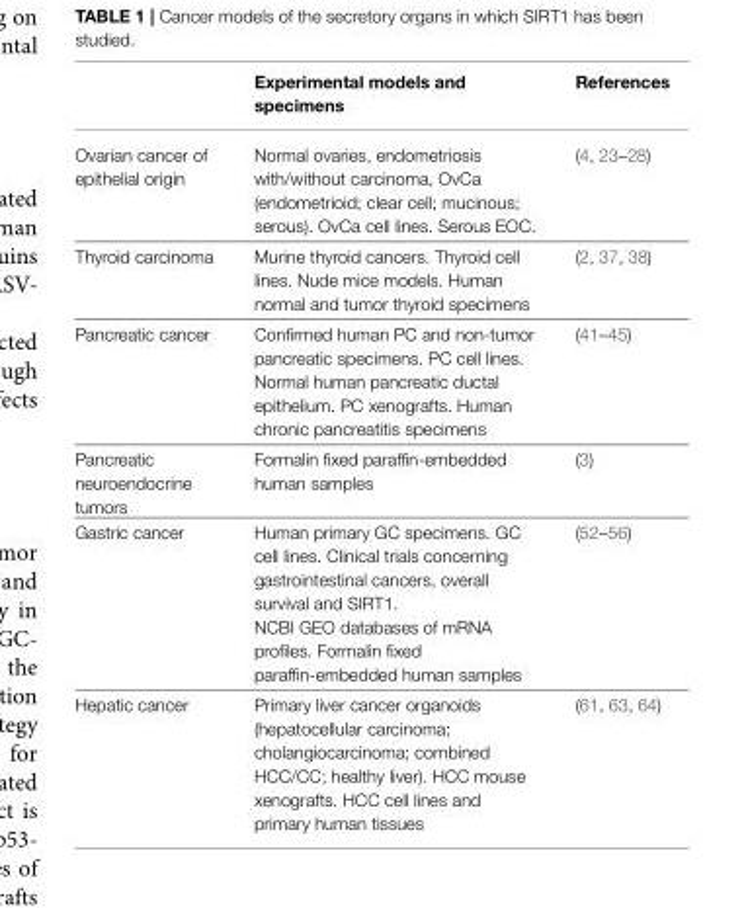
<table><thead><tr><td></td><td>Experimental models and specimens</td><td>References</td></tr></thead><tbody><tr><td>Ovarian cancer of epithelial origin</td><td>Normal ovaries, endometriosis with/without carcinoma, OvCa (endometrioid; clear cell; mucinous; serous). OvCa cell lines. Serous EOC.</td><td>(4, 23–28)</td></tr><tr><td>Thyroid carcinoma</td><td>Murine thyroid cancers. Thyroid cell lines. Nude mice models. Human normal and tumor thyroid specimens</td><td>(2, 37, 38)</td></tr><tr><td>Pancreatic cancer</td><td>Confirmed human PC and non-tumor pancreatic specimens. PC cell lines. Normal human pancreatic ductal epithelium. PC xenografts. Human chronic pancreatitis specimens</td><td>(41–45)</td></tr><tr><td>Pancreatic neuroendocrine tumors</td><td>Formalin fixed paraffin-embedded human samples</td><td>(3)</td></tr><tr><td>Gastric cancer</td><td>Human primary GC specimens. GC cell lines. Clinical trials concerning gastrointestinal cancers, overall survival and SIRT1. NCBI GEO databases of mRNA profiles. Formalin fixed paraffin-embedded human samples</td><td>(52–56)</td></tr><tr><td>Hepatic cancer</td><td>Primary liver cancer organoids (hepatocellular carcinoma; cholangiocarcinoma; combined HCC/CC; healthy liver). HCC mouse xenografts. HCC cell lines and primary human tissues</td><td>(61, 63, 64)</td></tr></tbody></table>